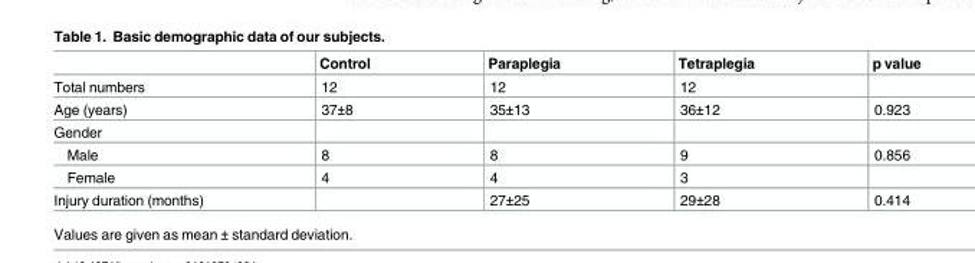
<table><thead><tr><td></td><td>Control</td><td>Paraplegia</td><td>Tetraplegia</td><td>p value</td></tr></thead><tbody><tr><td>Total numbers</td><td>12</td><td>12</td><td>12</td><td></td></tr><tr><td>Age (years)</td><td>37±8</td><td>35±13</td><td>36±12</td><td>0.923</td></tr><tr><td colspan="5">Gender</td></tr><tr><td>Male</td><td>8</td><td>8</td><td>9</td><td>0.856</td></tr><tr><td>Female</td><td>4</td><td>4</td><td>3</td><td></td></tr><tr><td>Injury duration (months)</td><td></td><td>27±25</td><td>29±28</td><td>0.414</td></tr></tbody></table>